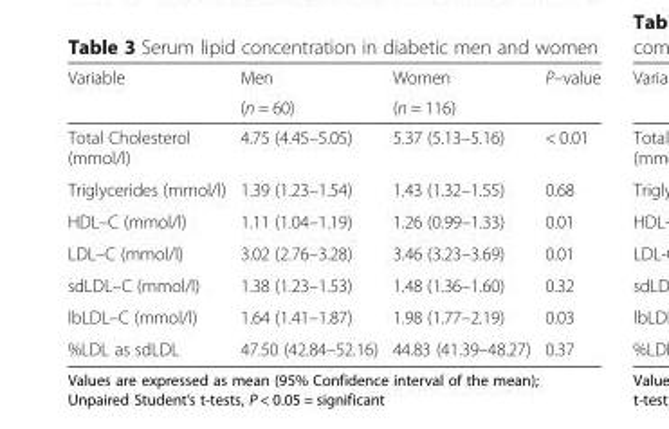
<table><thead><tr><td rowspan="2">Variable</td><td rowspan="2">Men (n = 60)</td><td rowspan="2">Women (n = 116)</td><td rowspan="2">P–value</td></tr><tr></tr></thead><tbody><tr><td>Total Cholesterol (mmol/l)</td><td>4.75 (4.45–5.05)</td><td>5.37 (5.13–5.16)</td><td>&lt; 0.01</td></tr><tr><td>Triglycerides (mmol/l)</td><td>1.39 (1.23–1.54)</td><td>1.43 (1.32–1.55)</td><td>0.68</td></tr><tr><td>HDL–C (mmol/l)</td><td>1.11 (1.04–1.19)</td><td>1.26 (0.99–1.33)</td><td>0.01</td></tr><tr><td>LDL–C (mmol/l)</td><td>3.02 (2.76–3.28)</td><td>3.46 (3.23–3.69)</td><td>0.01</td></tr><tr><td>sdLDL–C (mmol/l)</td><td>1.38 (1.23–1.53)</td><td>1.48 (1.36–1.60)</td><td>0.32</td></tr><tr><td>lbLDL–C (mmol/l)</td><td>1.64 (1.41–1.87)</td><td>1.98 (1.77–2.19)</td><td>0.03</td></tr><tr><td>%LDL as sdLDL</td><td>47.50 (42.84–52.16)</td><td>44.83 (41.39–48.27)</td><td>0.37</td></tr></tbody></table>